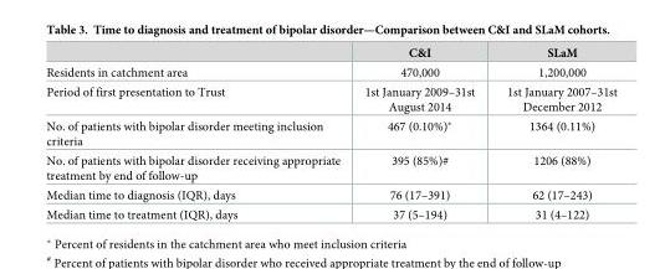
<table><thead><tr><td></td><td>C&amp;I</td><td>SLaM</td></tr></thead><tbody><tr><td>Residents in catchment area</td><td>470,000</td><td>1,200,000</td></tr><tr><td>Period of first presentation to Trust</td><td>1st January 2009–31st August 2014</td><td>1st January 2007–31st December 2012</td></tr><tr><td>No. of patients with bipolar disorder meeting inclusion criteria</td><td>467 (0.10%)*</td><td>1364 (0.11%)</td></tr><tr><td>No. of patients with bipolar disorder receiving appropriate treatment by end of follow-up</td><td>395 (85%)#</td><td>1206 (88%)</td></tr><tr><td>Median time to diagnosis (IQR), days</td><td>76 (17–391)</td><td>62 (17–243)</td></tr><tr><td>Median time to treatment (IQR), days</td><td>37 (5–194)</td><td>31 (4–122)</td></tr></tbody></table>